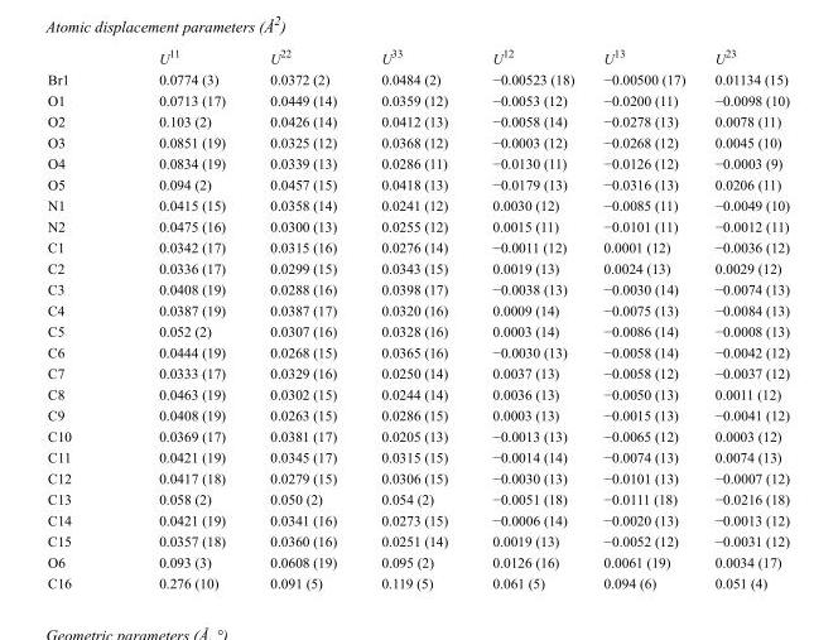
<table><thead><tr><td></td><td>U<sup>11</sup></td><td>U<sup>22</sup></td><td>U<sup>33</sup></td><td>U<sup>12</sup></td><td>U<sup>13</sup></td><td>U<sup>23</sup></td></tr></thead><tbody><tr><td>Br1</td><td>0.0774 (3)</td><td>0.0372 (2)</td><td>0.0484 (2)</td><td>−0.00523 (18)</td><td>−0.00500 (17)</td><td>0.01134 (15)</td></tr><tr><td>O1</td><td>0.0713 (17)</td><td>0.0449 (14)</td><td>0.0359 (12)</td><td>−0.0053 (12)</td><td>−0.0200 (11)</td><td>−0.0098 (10)</td></tr><tr><td>O2</td><td>0.103 (2)</td><td>0.0426 (14)</td><td>0.0412 (13)</td><td>−0.0058 (14)</td><td>−0.0278 (13)</td><td>0.0078 (11)</td></tr><tr><td>O3</td><td>0.0851 (19)</td><td>0.0325 (12)</td><td>0.0368 (12)</td><td>−0.0003 (12)</td><td>−0.0268 (12)</td><td>0.0045 (10)</td></tr><tr><td>O4</td><td>0.0834 (19)</td><td>0.0339 (13)</td><td>0.0286 (11)</td><td>−0.0130 (11)</td><td>−0.0126 (12)</td><td>−0.0003 (9)</td></tr><tr><td>O5</td><td>0.094 (2)</td><td>0.0457 (15)</td><td>0.0418 (13)</td><td>−0.0179 (13)</td><td>−0.0316 (13)</td><td>0.0206 (11)</td></tr><tr><td>N1</td><td>0.0415 (15)</td><td>0.0358 (14)</td><td>0.0241 (12)</td><td>0.0030 (12)</td><td>−0.0085 (11)</td><td>−0.0049 (10)</td></tr><tr><td>N2</td><td>0.0475 (16)</td><td>0.0300 (13)</td><td>0.0255 (12)</td><td>0.0015 (11)</td><td>−0.0101 (11)</td><td>−0.0012 (11)</td></tr><tr><td>C1</td><td>0.0342 (17)</td><td>0.0315 (16)</td><td>0.0276 (14)</td><td>−0.0011 (12)</td><td>0.0001 (12)</td><td>−0.0036 (12)</td></tr><tr><td>C2</td><td>0.0336 (17)</td><td>0.0299 (15)</td><td>0.0343 (15)</td><td>0.0019 (13)</td><td>0.0024 (13)</td><td>0.0029 (12)</td></tr><tr><td>C3</td><td>0.0408 (19)</td><td>0.0288 (16)</td><td>0.0398 (17)</td><td>−0.0038 (13)</td><td>−0.0030 (14)</td><td>−0.0074 (13)</td></tr><tr><td>C4</td><td>0.0387 (19)</td><td>0.0387 (17)</td><td>0.0320 (16)</td><td>0.0009 (14)</td><td>−0.0075 (13)</td><td>−0.0084 (13)</td></tr><tr><td>C5</td><td>0.052 (2)</td><td>0.0307 (16)</td><td>0.0328 (16)</td><td>0.0003 (14)</td><td>−0.0086 (14)</td><td>−0.0008 (13)</td></tr><tr><td>C6</td><td>0.0444 (19)</td><td>0.0268 (15)</td><td>0.0365 (16)</td><td>−0.0030 (13)</td><td>−0.0058 (14)</td><td>−0.0042 (12)</td></tr><tr><td>C7</td><td>0.0333 (17)</td><td>0.0329 (16)</td><td>0.0250 (14)</td><td>0.0037 (13)</td><td>−0.0058 (12)</td><td>−0.0037 (12)</td></tr><tr><td>C8</td><td>0.0463 (19)</td><td>0.0302 (15)</td><td>0.0244 (14)</td><td>0.0036 (13)</td><td>−0.0050 (13)</td><td>0.0011 (12)</td></tr><tr><td>C9</td><td>0.0408 (19)</td><td>0.0263 (15)</td><td>0.0286 (15)</td><td>0.0003 (13)</td><td>−0.0015 (13)</td><td>−0.0041 (12)</td></tr><tr><td>C10</td><td>0.0369 (17)</td><td>0.0381 (17)</td><td>0.0205 (13)</td><td>−0.0013 (13)</td><td>−0.0065 (12)</td><td>0.0003 (12)</td></tr><tr><td>C11</td><td>0.0421 (19)</td><td>0.0345 (17)</td><td>0.0315 (15)</td><td>−0.0014 (14)</td><td>−0.0074 (13)</td><td>0.0074 (13)</td></tr><tr><td>C12</td><td>0.0417 (18)</td><td>0.0279 (15)</td><td>0.0306 (15)</td><td>−0.0030 (13)</td><td>−0.0101 (13)</td><td>−0.0007 (12)</td></tr><tr><td>C13</td><td>0.058 (2)</td><td>0.050 (2)</td><td>0.054 (2)</td><td>−0.0051 (18)</td><td>−0.0111 (18)</td><td>−0.0216 (18)</td></tr><tr><td>C14</td><td>0.0421 (19)</td><td>0.0341 (16)</td><td>0.0273 (15)</td><td>−0.0006 (14)</td><td>−0.0020 (13)</td><td>−0.0013 (12)</td></tr><tr><td>C15</td><td>0.0357 (18)</td><td>0.0360 (16)</td><td>0.0251 (14)</td><td>0.0019 (13)</td><td>−0.0052 (12)</td><td>−0.0031 (12)</td></tr><tr><td>O6</td><td>0.093 (3)</td><td>0.0608 (19)</td><td>0.095 (2)</td><td>0.0126 (16)</td><td>0.0061 (19)</td><td>0.0034 (17)</td></tr><tr><td>C16</td><td>0.276 (10)</td><td>0.091 (5)</td><td>0.119 (5)</td><td>0.061 (5)</td><td>0.094 (6)</td><td>0.051 (4)</td></tr></tbody></table>